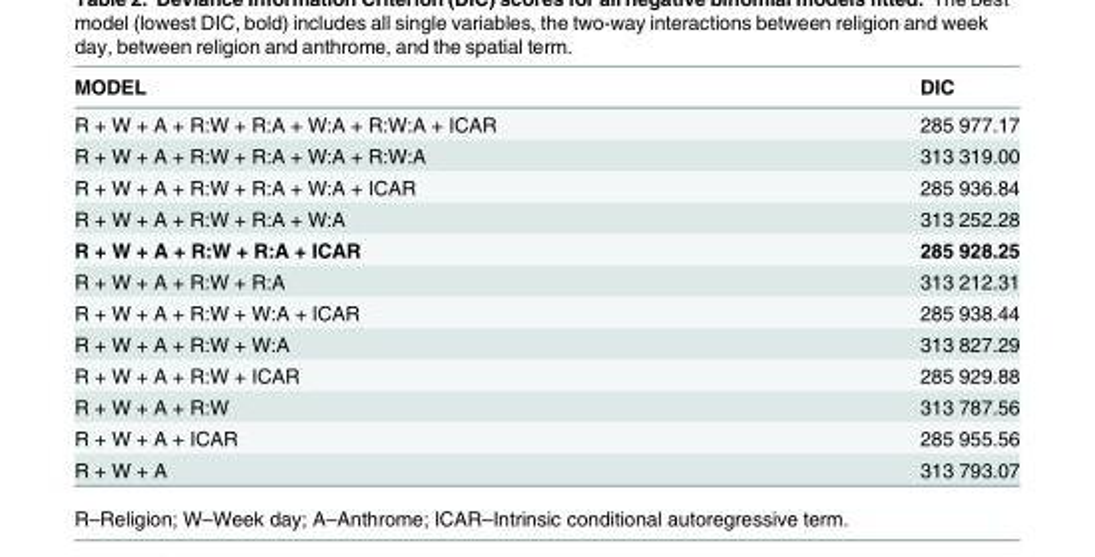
<table><thead><tr><td>MODEL</td><td>DIC</td></tr></thead><tbody><tr><td>R + W + A + R:W + R:A + W:A + R:W:A + ICAR</td><td>285 977.17</td></tr><tr><td>R + W + A + R:W + R:A + W:A + R:W:A</td><td>313 319.00</td></tr><tr><td>R + W + A + R:W + R:A + W:A + ICAR</td><td>285 936.84</td></tr><tr><td>R + W + A + R:W + R:A + W:A</td><td>313 252.28</td></tr><tr><td>R + W + A + R:W + R:A + ICAR</td><td>285 928.25</td></tr><tr><td>R + W + A + R:W + R:A</td><td>313 212.31</td></tr><tr><td>R + W + A + R:W + W:A + ICAR</td><td>285 938.44</td></tr><tr><td>R + W + A + R:W + W:A</td><td>313 827.29</td></tr><tr><td>R + W + A + R:W + ICAR</td><td>285 929.88</td></tr><tr><td>R + W + A + R:W</td><td>313 787.56</td></tr><tr><td>R + W + A + ICAR</td><td>285 955.56</td></tr><tr><td>R + W + A</td><td>313 793.07</td></tr></tbody></table>